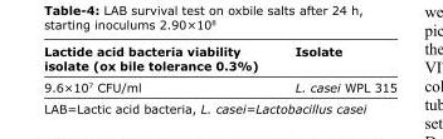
<table><thead><tr><td>Lactide acid bacteria viability isolate (ox bile tolerance 0.3%)</td><td>Isolate</td></tr></thead><tbody><tr><td>9.6×10<sup>7</sup> CFU/ml</td><td>L. casei WPL 315</td></tr></tbody></table>